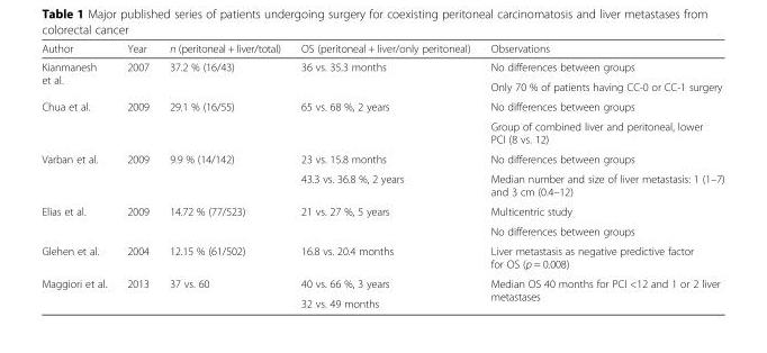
<table><thead><tr><td>Author</td><td>Year</td><td>n (peritoneal + liver/total)</td><td>OS (peritoneal + liver/only peritoneal)</td><td>Observations</td></tr></thead><tbody><tr><td rowspan="2">Kianmanesh et al.</td><td rowspan="2">2007</td><td rowspan="2">37.2 % (16/43)</td><td rowspan="2">36 vs. 35.3 months</td><td>No differences between groups</td></tr><tr><td>Only 70 % of patients having CC-0 or CC-1 surgery</td></tr><tr><td rowspan="2">Chua et al.</td><td rowspan="2">2009</td><td rowspan="2">29.1 % (16/55)</td><td rowspan="2">65 vs. 68 %, 2 years</td><td>No differences between groups</td></tr><tr><td>Group of combined liver and peritoneal, lower PCI (8 vs. 12)</td></tr><tr><td rowspan="2">Varban et al.</td><td rowspan="2">2009</td><td rowspan="2">9.9 % (14/142)</td><td>23 vs. 15.8 months</td><td>No differences between groups</td></tr><tr><td>43.3 vs. 36.8 %, 2 years</td><td>Median number and size of liver metastasis: 1 (1–7) and 3 cm (0.4–12)</td></tr><tr><td rowspan="2">Elias et al.</td><td rowspan="2">2009</td><td rowspan="2">14.72 % (77/523)</td><td rowspan="2">21 vs. 27 %, 5 years</td><td>Multicentric study</td></tr><tr><td>No differences between groups</td></tr><tr><td>Glehen et al.</td><td>2004</td><td>12.15 % (61/502)</td><td>16.8 vs. 20.4 months</td><td>Liver metastasis as negative predictive factor for OS (p = 0.008)</td></tr><tr><td rowspan="2">Maggiori et al.</td><td rowspan="2">2013</td><td rowspan="2">37 vs. 60</td><td>40 vs. 66 %, 3 years</td><td rowspan="2">Median OS 40 months for PCI &lt;12 and 1 or 2 liver metastases</td></tr><tr><td>32 vs. 49 months</td></tr></tbody></table>